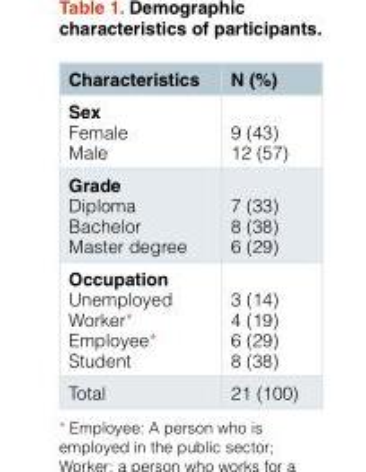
<table><thead><tr><td>Characteristics</td><td>N (%)</td></tr></thead><tbody><tr><td>Sex Female Male</td><td>9 (43) 12 (57)</td></tr><tr><td>Grade Diploma Bachelor Master degree</td><td>7 (33) 8 (38) 6 (29)</td></tr><tr><td>Occupation Unemployed Worker* Employee* Student</td><td>3 (14) 4 (19) 6 (29) 8 (38)</td></tr><tr><td>Total</td><td>21 (100)</td></tr></tbody></table>